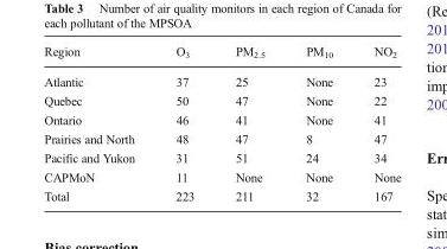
<table><thead><tr><td>Region</td><td>O<sub>3</sub></td><td>PM<sub>2.5</sub></td><td>PM<sub>10</sub></td><td>NO<sub>2</sub></td></tr></thead><tbody><tr><td>Atlantic</td><td>37</td><td>25</td><td>None</td><td>23</td></tr><tr><td>Quebec</td><td>50</td><td>47</td><td>None</td><td>22</td></tr><tr><td>Ontario</td><td>46</td><td>41</td><td>None</td><td>41</td></tr><tr><td>Prairies and North</td><td>48</td><td>47</td><td>8</td><td>47</td></tr><tr><td>Pacific and Yukon</td><td>31</td><td>51</td><td>24</td><td>34</td></tr><tr><td>CAPMoN</td><td>11</td><td>None</td><td>None</td><td>None</td></tr><tr><td>Total</td><td>223</td><td>211</td><td>32</td><td>167</td></tr></tbody></table>